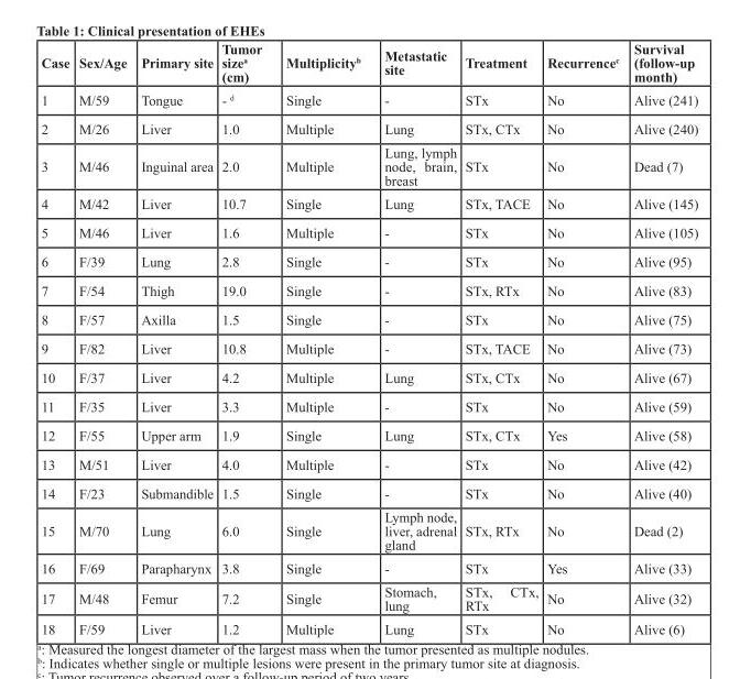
<table><thead><tr><td>Case</td><td>Sex/Age</td><td>Primary site</td><td>Tumor size<sup>a</sup> (cm)</td><td>Multiplicity<sup>b</sup></td><td>Metastatic site</td><td>Treatment</td><td>Recurrence<sup>c</sup></td><td>Survival (follow-up month)</td></tr></thead><tbody><tr><td>1</td><td>M/59</td><td>Tongue</td><td>- <sup>d</sup></td><td>Single</td><td>-</td><td>STx</td><td>No</td><td>Alive (241)</td></tr><tr><td>2</td><td>M/26</td><td>Liver</td><td>1.0</td><td>Multiple</td><td>Lung</td><td>STx, CTx</td><td>No</td><td>Alive (240)</td></tr><tr><td>3</td><td>M/46</td><td>Inguinal area</td><td>2.0</td><td>Multiple</td><td>Lung, lymph node, brain, breast</td><td>STx</td><td>No</td><td>Dead (7)</td></tr><tr><td>4</td><td>M/42</td><td>Liver</td><td>10.7</td><td>Single</td><td>Lung</td><td>STx, TACE</td><td>No</td><td>Alive (145)</td></tr><tr><td>5</td><td>M/46</td><td>Liver</td><td>1.6</td><td>Multiple</td><td>-</td><td>STx</td><td>No</td><td>Alive (105)</td></tr><tr><td>6</td><td>F/39</td><td>Lung</td><td>2.8</td><td>Single</td><td>-</td><td>STx</td><td>No</td><td>Alive (95)</td></tr><tr><td>7</td><td>F/54</td><td>Thigh</td><td>19.0</td><td>Single</td><td>-</td><td>STx, RTx</td><td>No</td><td>Alive (83)</td></tr><tr><td>8</td><td>F/57</td><td>Axilla</td><td>1.5</td><td>Single</td><td>-</td><td>STx</td><td>No</td><td>Alive (75)</td></tr><tr><td>9</td><td>F/82</td><td>Liver</td><td>10.8</td><td>Multiple</td><td>-</td><td>STx, TACE</td><td>No</td><td>Alive (73)</td></tr><tr><td>10</td><td>F/37</td><td>Liver</td><td>4.2</td><td>Multiple</td><td>Lung</td><td>STx, CTx</td><td>No</td><td>Alive (67)</td></tr><tr><td>11</td><td>F/35</td><td>Liver</td><td>3.3</td><td>Multiple</td><td>-</td><td>STx</td><td>No</td><td>Alive (59)</td></tr><tr><td>12</td><td>F/55</td><td>Upper arm</td><td>1.9</td><td>Single</td><td>Lung</td><td>STx, CTx</td><td>Yes</td><td>Alive (58)</td></tr><tr><td>13</td><td>M/51</td><td>Liver</td><td>4.0</td><td>Multiple</td><td>-</td><td>STx</td><td>No</td><td>Alive (42)</td></tr><tr><td>14</td><td>F/23</td><td>Submandible</td><td>1.5</td><td>Single</td><td>-</td><td>STx</td><td>No</td><td>Alive (40)</td></tr><tr><td>15</td><td>M/70</td><td>Lung</td><td>6.0</td><td>Single</td><td>Lymph node, liver, adrenal gland</td><td>STx, RTx</td><td>No</td><td>Dead (2)</td></tr><tr><td>16</td><td>F/69</td><td>Parapharynx</td><td>3.8</td><td>Single</td><td>-</td><td>STx</td><td>Yes</td><td>Alive (33)</td></tr><tr><td>17</td><td>M/48</td><td>Femur</td><td>7.2</td><td>Single</td><td>Stomach, lung</td><td>STx, CTx, RTx</td><td>No</td><td>Alive (32)</td></tr><tr><td>18</td><td>F/59</td><td>Liver</td><td>1.2</td><td>Multiple</td><td>Lung</td><td>STx</td><td>No</td><td>Alive (6)</td></tr></tbody></table>